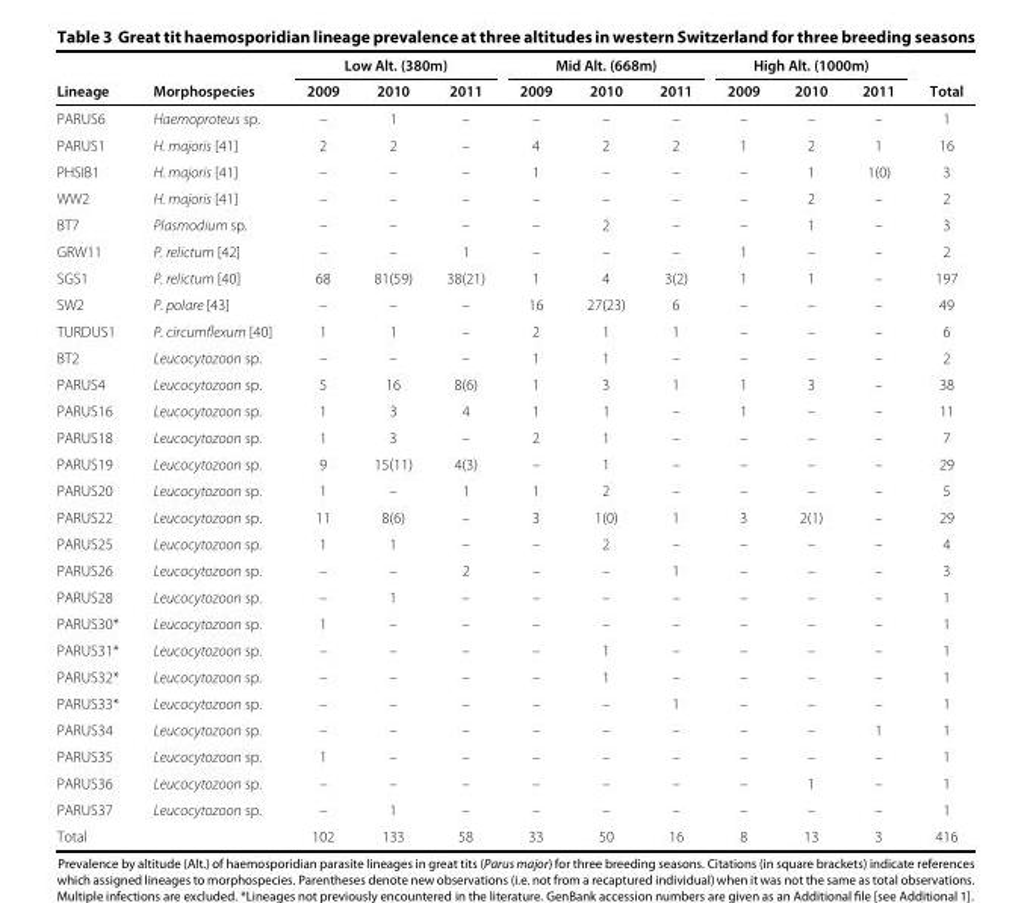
<table><thead><tr><td rowspan="2">Lineage</td><td rowspan="2">Morphospecies</td><td colspan="3">Low Alt. (380m)</td><td colspan="3">Mid Alt. (668m)</td><td colspan="3">High Alt. (1000m)</td><td rowspan="2">Total</td></tr><tr><td>2009</td><td>2010</td><td>2011</td><td>2009</td><td>2010</td><td>2011</td><td>2009</td><td>2010</td><td>2011</td></tr></thead><tbody><tr><td>PARUS6</td><td>Haemoproteus sp.</td><td>–</td><td>1</td><td>–</td><td>–</td><td>–</td><td>–</td><td>–</td><td>–</td><td>–</td><td>1</td></tr><tr><td>PARUS1</td><td>H. majoris [41]</td><td>2</td><td>2</td><td>–</td><td>4</td><td>2</td><td>2</td><td>1</td><td>2</td><td>1</td><td>16</td></tr><tr><td>PHSIB1</td><td>H. majoris [41]</td><td>–</td><td>–</td><td>–</td><td>1</td><td>–</td><td>–</td><td>–</td><td>1</td><td>1(0)</td><td>3</td></tr><tr><td>WW2</td><td>H. majoris [41]</td><td>–</td><td>–</td><td>–</td><td>–</td><td>–</td><td>–</td><td>–</td><td>2</td><td>–</td><td>2</td></tr><tr><td>BT7</td><td>Plasmodium sp.</td><td>–</td><td>–</td><td>–</td><td>–</td><td>2</td><td>–</td><td>–</td><td>1</td><td>–</td><td>3</td></tr><tr><td>GRW11</td><td>P. relictum [42]</td><td>–</td><td>–</td><td>1</td><td>–</td><td>–</td><td>–</td><td>1</td><td>–</td><td>–</td><td>2</td></tr><tr><td>SGS1</td><td>P. relictum [40]</td><td>68</td><td>81(59)</td><td>38(21)</td><td>1</td><td>4</td><td>3(2)</td><td>1</td><td>1</td><td>–</td><td>197</td></tr><tr><td>SW2</td><td>P. polare [43]</td><td>–</td><td>–</td><td>–</td><td>16</td><td>27(23)</td><td>6</td><td>–</td><td>–</td><td>–</td><td>49</td></tr><tr><td>TURDUS1</td><td>P. circumflexum [40]</td><td>1</td><td>1</td><td>–</td><td>2</td><td>1</td><td>1</td><td>–</td><td>–</td><td>–</td><td>6</td></tr><tr><td>BT2</td><td>Leucocytozoon sp.</td><td>–</td><td>–</td><td>–</td><td>1</td><td>1</td><td>–</td><td>–</td><td>–</td><td>–</td><td>2</td></tr><tr><td>PARUS4</td><td>Leucocytozoon sp.</td><td>5</td><td>16</td><td>8(6)</td><td>1</td><td>3</td><td>1</td><td>1</td><td>3</td><td>–</td><td>38</td></tr><tr><td>PARUS16</td><td>Leucocytozoon sp.</td><td>1</td><td>3</td><td>4</td><td>1</td><td>1</td><td>–</td><td>1</td><td>–</td><td>–</td><td>11</td></tr><tr><td>PARUS18</td><td>Leucocytozoon sp.</td><td>1</td><td>3</td><td>–</td><td>2</td><td>1</td><td>–</td><td>–</td><td>–</td><td>–</td><td>7</td></tr><tr><td>PARUS19</td><td>Leucocytozoon sp.</td><td>9</td><td>15(11)</td><td>4(3)</td><td>–</td><td>1</td><td>–</td><td>–</td><td>–</td><td>–</td><td>29</td></tr><tr><td>PARUS20</td><td>Leucocytozoon sp.</td><td>1</td><td>–</td><td>1</td><td>1</td><td>2</td><td>–</td><td>–</td><td>–</td><td>–</td><td>5</td></tr><tr><td>PARUS22</td><td>Leucocytozoon sp.</td><td>11</td><td>8(6)</td><td>–</td><td>3</td><td>1(0)</td><td>1</td><td>3</td><td>2(1)</td><td>–</td><td>29</td></tr><tr><td>PARUS25</td><td>Leucocytozoon sp.</td><td>1</td><td>1</td><td>–</td><td>–</td><td>2</td><td>–</td><td>–</td><td>–</td><td>–</td><td>4</td></tr><tr><td>PARUS26</td><td>Leucocytozoon sp.</td><td>–</td><td>–</td><td>2</td><td>–</td><td>–</td><td>1</td><td>–</td><td>–</td><td>–</td><td>3</td></tr><tr><td>PARUS28</td><td>Leucocytozoon sp.</td><td>–</td><td>1</td><td>–</td><td>–</td><td>–</td><td>–</td><td>–</td><td>–</td><td>–</td><td>1</td></tr><tr><td>PARUS30*</td><td>Leucocytozoon sp.</td><td>1</td><td>–</td><td>–</td><td>–</td><td>–</td><td>–</td><td>–</td><td>–</td><td>–</td><td>1</td></tr><tr><td>PARUS31*</td><td>Leucocytozoon sp.</td><td>–</td><td>–</td><td>–</td><td>–</td><td>1</td><td>–</td><td>–</td><td>–</td><td>–</td><td>1</td></tr><tr><td>PARUS32*</td><td>Leucocytozoon sp.</td><td>–</td><td>–</td><td>–</td><td>–</td><td>1</td><td>–</td><td>–</td><td>–</td><td>–</td><td>1</td></tr><tr><td>PARUS33*</td><td>Leucocytozoon sp.</td><td>–</td><td>–</td><td>–</td><td>–</td><td>–</td><td>1</td><td>–</td><td>–</td><td>–</td><td>1</td></tr><tr><td>PARUS34</td><td>Leucocytozoon sp.</td><td>–</td><td>–</td><td>–</td><td>–</td><td>–</td><td>–</td><td>–</td><td>–</td><td>1</td><td>1</td></tr><tr><td>PARUS35</td><td>Leucocytozoon sp.</td><td>1</td><td>–</td><td>–</td><td>–</td><td>–</td><td>–</td><td>–</td><td>–</td><td>–</td><td>1</td></tr><tr><td>PARUS36</td><td>Leucocytozoon sp.</td><td>–</td><td>–</td><td>–</td><td>–</td><td>–</td><td>–</td><td>–</td><td>1</td><td>–</td><td>1</td></tr><tr><td>PARUS37</td><td>Leucocytozoon sp.</td><td>–</td><td>1</td><td>–</td><td>–</td><td>–</td><td>–</td><td>–</td><td>–</td><td>–</td><td>1</td></tr><tr><td>Total</td><td></td><td>102</td><td>133</td><td>58</td><td>33</td><td>50</td><td>16</td><td>8</td><td>13</td><td>3</td><td>416</td></tr></tbody></table>